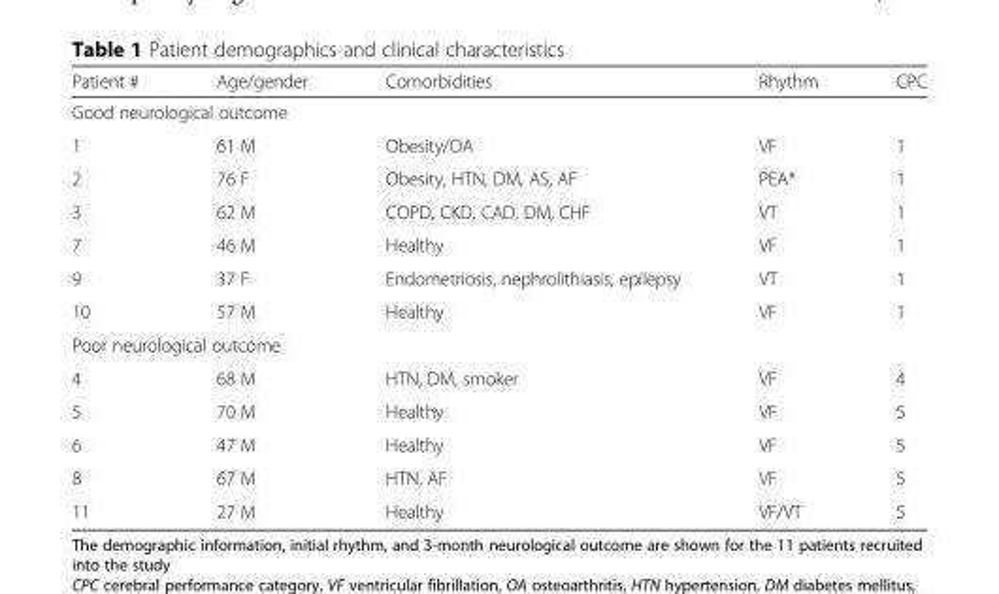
<table><thead><tr><td>Patient #</td><td>Age/gender</td><td>Comorbidities</td><td>Rhythm</td><td>CPC</td></tr></thead><tbody><tr><td colspan="5">Good neurological outcome</td></tr><tr><td>1</td><td>61 M</td><td>Obesity/OA</td><td>VF</td><td>1</td></tr><tr><td>2</td><td>76 F</td><td>Obesity, HTN, DM, AS, AF</td><td>PEA*</td><td>1</td></tr><tr><td>3</td><td>62 M</td><td>COPD, CKD, CAD, DM, CHF</td><td>VT</td><td>1</td></tr><tr><td>7</td><td>46 M</td><td>Healthy</td><td>VF</td><td>1</td></tr><tr><td>9</td><td>37 F</td><td>Endometriosis, nephrolithiasis, epilepsy</td><td>VT</td><td>1</td></tr><tr><td>10</td><td>57 M</td><td>Healthy</td><td>VF</td><td>1</td></tr><tr><td colspan="5">Poor neurological outcome</td></tr><tr><td>4</td><td>68 M</td><td>HTN, DM, smoker</td><td>VF</td><td>4</td></tr><tr><td>5</td><td>70 M</td><td>Healthy</td><td>VF</td><td>5</td></tr><tr><td>6</td><td>47 M</td><td>Healthy</td><td>VF</td><td>5</td></tr><tr><td>8</td><td>67 M</td><td>HTN, AF</td><td>VF</td><td>5</td></tr><tr><td>11</td><td>27 M</td><td>Healthy</td><td>VF/VT</td><td>5</td></tr></tbody></table>